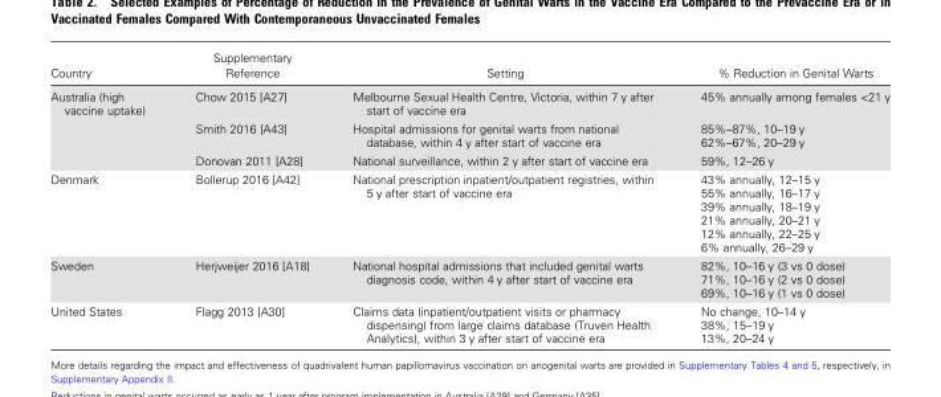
<table><thead><tr><td>Country</td><td>Supplementary Reference</td><td>Setting</td><td>% Reduction in Genital Warts</td></tr></thead><tbody><tr><td rowspan="3">Australia (high vaccine uptake)</td><td>Chow 2015 [A27]</td><td>Melbourne Sexual Health Centre, Victoria, within 7 y after start of vaccine era</td><td>45% annually among females &lt;21 y</td></tr><tr><td>Smith 2016 [A43]</td><td>Hospital admissions for genital warts from national database, within 4 y after start of vaccine era</td><td>85%–87%, 10–19 y 62%–67%, 20–29 y</td></tr><tr><td>Donovan 2011 [A28]</td><td>National surveillance, within 2 y after start of vaccine era</td><td>59%, 12–26 y</td></tr><tr><td>Denmark</td><td>Bollerup 2016 [A42]</td><td>National prescription inpatient/outpatient registries, within 5 y after start of vaccine era</td><td>43% annually, 12–15 y 55% annually, 16–17 y 39% annually, 18–19 y 21% annually, 20–21 y 12% annually, 22–25 y 6% annually, 26–29 y</td></tr><tr><td>Sweden</td><td>Herjweijer 2016 [A18]</td><td>National hospital admissions that included genital warts diagnosis code, within 4 y after start of vaccine era</td><td>82%, 10–16 y (3 vs 0 dose) 71%, 10–16 y (2 vs 0 dose) 69%, 10–16 y (1 vs 0 dose)</td></tr><tr><td>United States</td><td>Flagg 2013 [A30]</td><td>Claims data (inpatient/outpatient visits or pharmacy dispensing) from large claims database (Truven Health Analytics), within 3 y after start of vaccine era</td><td>No change, 10–14 y 38%, 15–19 y 13%, 20–24 y</td></tr></tbody></table>